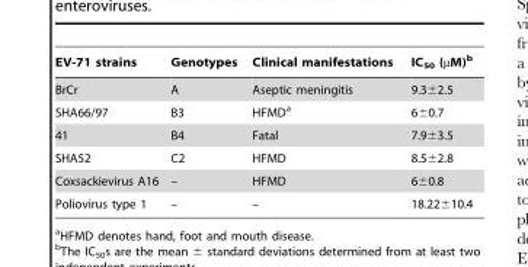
<table><thead><tr><td>EV-71 strains</td><td>Genotypes</td><td>Clinical manifestations</td><td>IC<sub>50</sub> (µM)<sup>b</sup></td></tr></thead><tbody><tr><td>BrCr</td><td>A</td><td>Aseptic meningitis</td><td>9.3±2.5</td></tr><tr><td>SHA66/97</td><td>B3</td><td>HFMD<sup>a</sup></td><td>6±0.7</td></tr><tr><td>41</td><td>B4</td><td>Fatal</td><td>7.9±3.5</td></tr><tr><td>SHA52</td><td>C2</td><td>HFMD</td><td>8.5±2.8</td></tr><tr><td>Coxsackievirus A16</td><td>–</td><td>HFMD</td><td>6±0.8</td></tr><tr><td>Poliovirus type 1</td><td>–</td><td>–</td><td>18.22±10.4</td></tr></tbody></table>